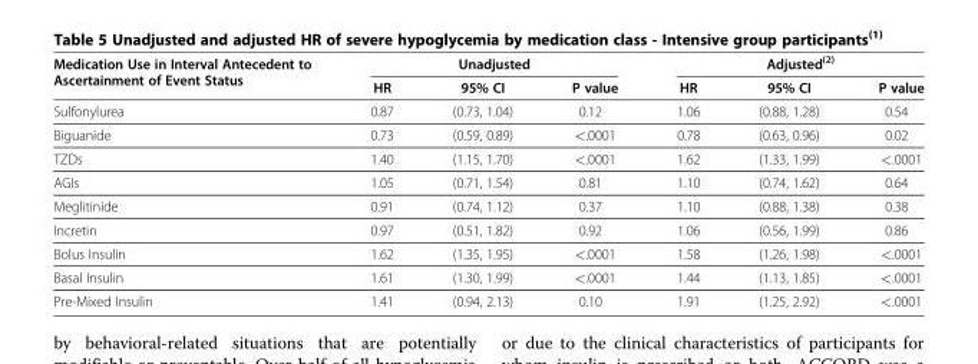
<table><thead><tr><td rowspan="2">Medication Use in Interval Antecedent to Ascertainment of Event Status</td><td colspan="3">Unadjusted</td><td colspan="3">Adjusted<sup>(2)</sup></td></tr><tr><td>HR</td><td>95% CI</td><td>P value</td><td>HR</td><td>95% CI</td><td>P value</td></tr></thead><tbody><tr><td>Sulfonylurea</td><td>0.87</td><td>(0.73, 1.04)</td><td>0.12</td><td>1.06</td><td>(0.88, 1.28)</td><td>0.54</td></tr><tr><td>Biguanide</td><td>0.73</td><td>(0.59, 0.89)</td><td>&lt;.0001</td><td>0.78</td><td>(0.63, 0.96)</td><td>0.02</td></tr><tr><td>TZDs</td><td>1.40</td><td>(1.15, 1.70)</td><td>&lt;.0001</td><td>1.62</td><td>(1.33, 1.99)</td><td>&lt;.0001</td></tr><tr><td>AGIs</td><td>1.05</td><td>(0.71, 1.54)</td><td>0.81</td><td>1.10</td><td>(0.74, 1.62)</td><td>0.64</td></tr><tr><td>Meglitinide</td><td>0.91</td><td>(0.74, 1.12)</td><td>0.37</td><td>1.10</td><td>(0.88, 1.38)</td><td>0.38</td></tr><tr><td>Incretin</td><td>0.97</td><td>(0.51, 1.82)</td><td>0.92</td><td>1.06</td><td>(0.56, 1.99)</td><td>0.86</td></tr><tr><td>Bolus Insulin</td><td>1.62</td><td>(1.35, 1.95)</td><td>&lt;.0001</td><td>1.58</td><td>(1.26, 1.98)</td><td>&lt;.0001</td></tr><tr><td>Basal Insulin</td><td>1.61</td><td>(1.30, 1.99)</td><td>&lt;.0001</td><td>1.44</td><td>(1.13, 1.85)</td><td>&lt;.0001</td></tr><tr><td>Pre-Mixed Insulin</td><td>1.41</td><td>(0.94, 2.13)</td><td>0.10</td><td>1.91</td><td>(1.25, 2.92)</td><td>&lt;.0001</td></tr></tbody></table>